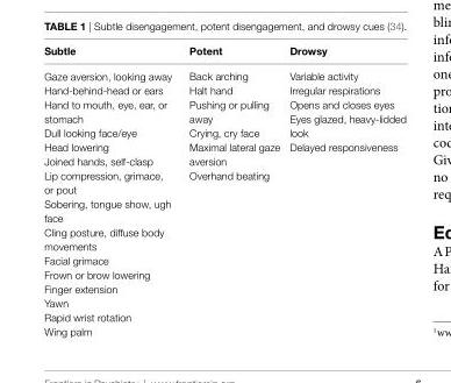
<table><thead><tr><td>Subtle</td><td>Potent</td><td>drowsy</td></tr></thead><tbody><tr><td>Gaze aversion, looking away Hand-behind-head or ears Hand to mouth, eye, ear, or stomach Dull looking face/eye Head lowering Joined hands, self-clasp Lip compression, grimace, or pout Sobering, tongue show, ugh face Cling posture, diffuse body movements Facial grimace Frown or brow lowering Finger extension Yawn Rapid wrist rotation Wing palm</td><td>Back arching Halt hand Pushing or pulling away Crying, cry face Maximal lateral gaze aversion Overhand beating</td><td>Variable activity Irregular respirations Opens and closes eyes Eyes glazed, heavy-lidded look Delayed responsiveness</td></tr></tbody></table>